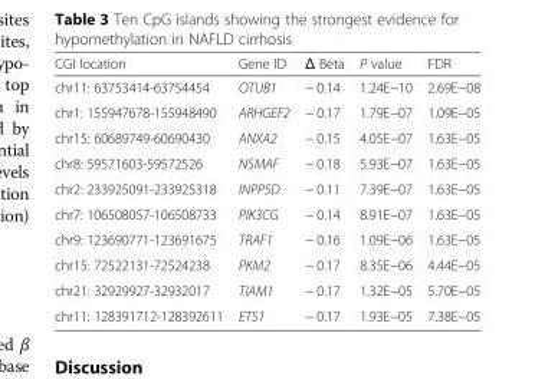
<table><thead><tr><td>CGI location</td><td>Gene ID</td><td>Δ Beta</td><td>P value</td><td>FDR</td></tr></thead><tbody><tr><td>chr11: 63753414-63754454</td><td>OTUB1</td><td>− 0.14</td><td>1.24E−10</td><td>2.69E−08</td></tr><tr><td>chr1: 155947678-155948490</td><td>ARHGEF2</td><td>− 0.17</td><td>1.79E−07</td><td>1.09E−05</td></tr><tr><td>chr15: 60689749-60690430</td><td>ANXA2</td><td>− 0.15</td><td>4.05E−07</td><td>1.63E−05</td></tr><tr><td>chr8: 59571603-59572526</td><td>NSMAF</td><td>− 0.18</td><td>5.93E−07</td><td>1.63E−05</td></tr><tr><td>chr2: 233925091-233925318</td><td>INPP5D</td><td>− 0.11</td><td>7.39E−07</td><td>1.63E−05</td></tr><tr><td>chr7: 106508057-106508733</td><td>PIK3CG</td><td>− 0.14</td><td>8.91E−07</td><td>1.63E−05</td></tr><tr><td>chr9: 123690771-123691675</td><td>TRAF1</td><td>− 0.16</td><td>1.09E−06</td><td>1.63E−05</td></tr><tr><td>chr15: 72522131-72524238</td><td>PKM2</td><td>− 0.17</td><td>8.35E−06</td><td>4.44E−05</td></tr><tr><td>chr21: 32929927-32932017</td><td>TIAM1</td><td>− 0.17</td><td>1.32E−05</td><td>5.70E−05</td></tr><tr><td>chr11: 128391712-128392611</td><td>ETS1</td><td>− 0.17</td><td>1.93E−05</td><td>7.38E−05</td></tr></tbody></table>